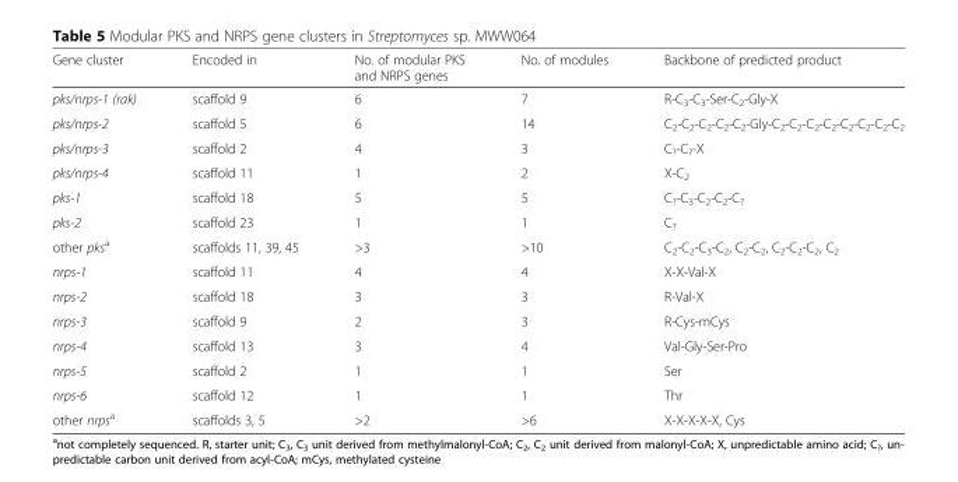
<table><thead><tr><td>Gene cluster</td><td>Encoded in</td><td>No. of modular PKS and NRPS genes</td><td>No. of modules</td><td>Backbone of predicted product</td></tr></thead><tbody><tr><td>pks/nrps-1 (rak)</td><td>scaffold 9</td><td>6</td><td>7</td><td>R-C<sub>3</sub>-C<sub>3</sub>-Ser-C<sub>2</sub>-Gly-X</td></tr><tr><td>pks/nrps-2</td><td>scaffold 5</td><td>6</td><td>14</td><td>C<sub>2</sub>-C<sub>2</sub>-C<sub>2</sub>-C<sub>2</sub>-C<sub>2</sub>-Gly-C<sub>2</sub>-C<sub>2</sub>-C<sub>2</sub>-C<sub>2</sub>-C<sub>2</sub>-C<sub>2</sub>-C<sub>2</sub>-C<sub>2</sub></td></tr><tr><td>pks/nrps-3</td><td>scaffold 2</td><td>4</td><td>3</td><td>C<sub>?</sub>-C<sub>?</sub>-X</td></tr><tr><td>pks/nrps-4</td><td>scaffold 11</td><td>1</td><td>2</td><td>X-C<sub>2</sub></td></tr><tr><td>pks-1</td><td>scaffold 18</td><td>5</td><td>5</td><td>C<sub>?</sub>-C<sub>3</sub>-C<sub>2</sub>-C<sub>2</sub>-C<sub>?</sub></td></tr><tr><td>pks-2</td><td>scaffold 23</td><td>1</td><td>1</td><td>C<sub>?</sub></td></tr><tr><td>other pks<sup>a</sup></td><td>scaffolds 11, 39, 45</td><td>&gt;3</td><td>&gt;10</td><td>C<sub>2</sub>-C<sub>2</sub>-C<sub>3</sub>-C<sub>2</sub>, C<sub>2</sub>-C<sub>2</sub>, C<sub>2</sub>-C<sub>2</sub>-C<sub>2</sub>, C<sub>2</sub></td></tr><tr><td>nrps-1</td><td>scaffold 11</td><td>4</td><td>4</td><td>X-X-Val-X</td></tr><tr><td>nrps-2</td><td>scaffold 18</td><td>3</td><td>3</td><td>R-Val-X</td></tr><tr><td>nrps-3</td><td>scaffold 9</td><td>2</td><td>3</td><td>R-Cys-mCys</td></tr><tr><td>nrps-4</td><td>scaffold 13</td><td>3</td><td>4</td><td>Val-Gly-Ser-Pro</td></tr><tr><td>nrps-5</td><td>scaffold 2</td><td>1</td><td>1</td><td>Ser</td></tr><tr><td>nrps-6</td><td>scaffold 12</td><td>1</td><td>1</td><td>Thr</td></tr><tr><td>other nrps<sup>a</sup></td><td>scaffolds 3, 5</td><td>&gt;2</td><td>&gt;6</td><td>X-X-X-X-X, Cys</td></tr></tbody></table>